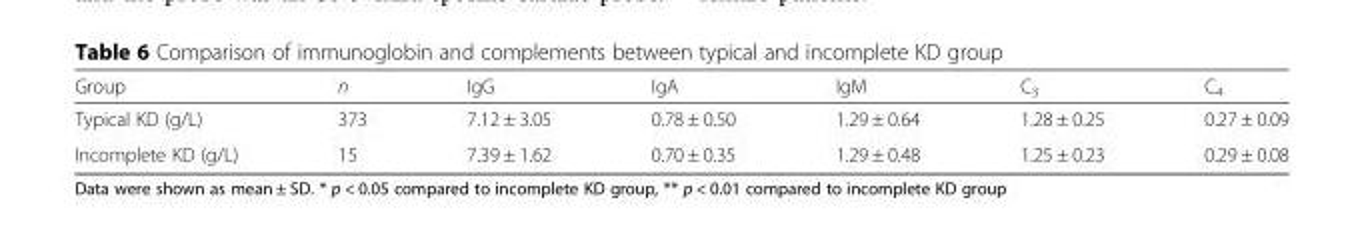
<table><thead><tr><td>Group</td><td>n</td><td>IgG</td><td>IgA</td><td>IgM</td><td>C<sub>3</sub></td><td>C<sub>4</sub></td></tr></thead><tbody><tr><td>Typical KD (g/L)</td><td>373</td><td>7.12 ± 3.05</td><td>0.78 ± 0.50</td><td>1.29 ± 0.64</td><td>1.28 ± 0.25</td><td>0.27 ± 0.09</td></tr><tr><td>Incomplete KD (g/L)</td><td>15</td><td>7.39 ± 1.62</td><td>0.70 ± 0.35</td><td>1.29 ± 0.48</td><td>1.25 ± 0.23</td><td>0.29 ± 0.08</td></tr></tbody></table>